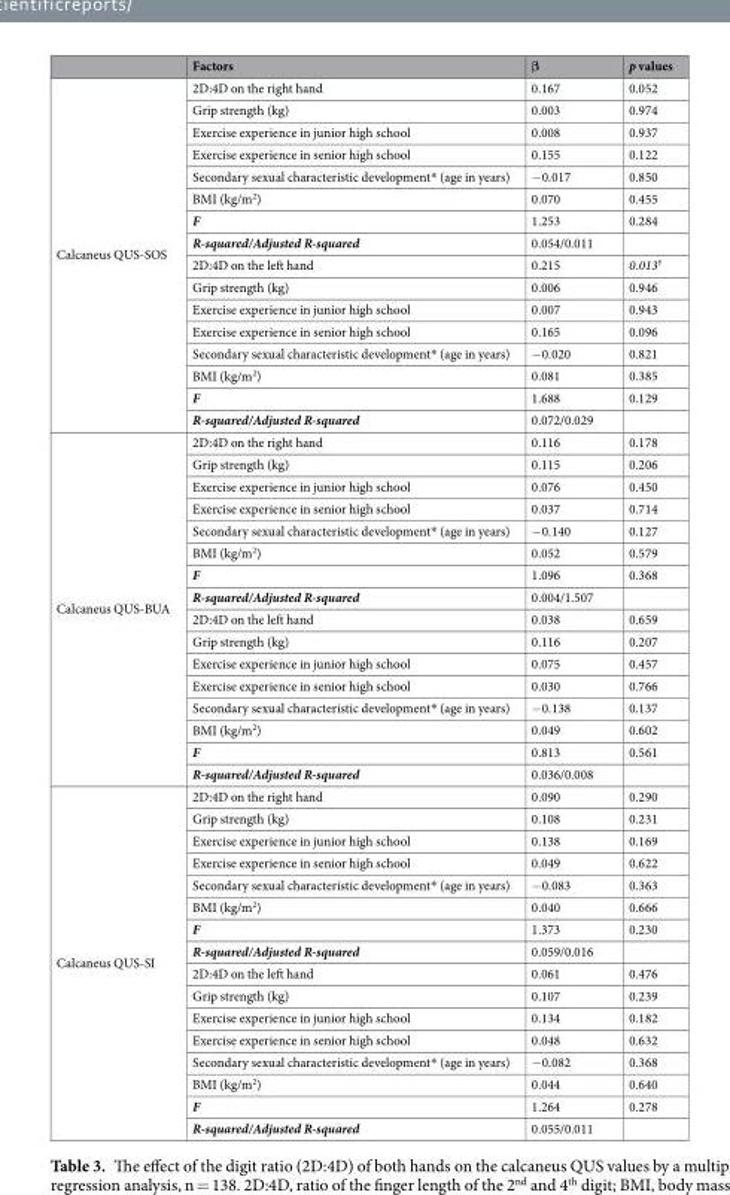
<table><thead><tr><td></td><td>Factors</td><td>β</td><td>p values</td></tr></thead><tbody><tr><td rowspan="16">Calcaneus QUS-SOS</td><td>2D:4D on the right hand</td><td>0.167</td><td>0.052</td></tr><tr><td>Grip strength (kg)</td><td>0.003</td><td>0.974</td></tr><tr><td>Exercise experience in junior high school</td><td>0.008</td><td>0.937</td></tr><tr><td>Exercise experience in senior high school</td><td>0.155</td><td>0.122</td></tr><tr><td>Secondary sexual characteristic development* (age in years)</td><td>−0.017</td><td>0.850</td></tr><tr><td>BMI (kg/m<sup>2</sup>)</td><td>0.070</td><td>0.455</td></tr><tr><td>F</td><td>1.253</td><td>0.284</td></tr><tr><td>R-squared/Adjusted R-squared</td><td>0.054/0.011</td><td></td></tr><tr><td>2D:4D on the left hand</td><td>0.215</td><td>0.013<sup>†</sup></td></tr><tr><td>Grip strength (kg)</td><td>0.006</td><td>0.946</td></tr><tr><td>Exercise experience in junior high school</td><td>0.007</td><td>0.943</td></tr><tr><td>Exercise experience in senior high school</td><td>0.165</td><td>0.096</td></tr><tr><td>Secondary sexual characteristic development* (age in years)</td><td>−0.020</td><td>0.821</td></tr><tr><td>BMI (kg/m<sup>2</sup>)</td><td>0.081</td><td>0.385</td></tr><tr><td>F</td><td>1.688</td><td>0.129</td></tr><tr><td>R-squared/Adjusted R-squared</td><td>0.072/0.029</td><td></td></tr><tr><td rowspan="16">Calcaneus QUS-BUA</td><td>2D:4D on the right hand</td><td>0.116</td><td>0.178</td></tr><tr><td>Grip strength (kg)</td><td>0.115</td><td>0.206</td></tr><tr><td>Exercise experience in junior high school</td><td>0.076</td><td>0.450</td></tr><tr><td>Exercise experience in senior high school</td><td>0.037</td><td>0.714</td></tr><tr><td>Secondary sexual characteristic development* (age in years)</td><td>−0.140</td><td>0.127</td></tr><tr><td>BMI (kg/m<sup>2</sup>)</td><td>0.052</td><td>0.579</td></tr><tr><td>F</td><td>1.096</td><td>0.368</td></tr><tr><td>R-squared/Adjusted R-squared</td><td>0.004/1.507</td><td></td></tr><tr><td>2D:4D on the left hand</td><td>0.038</td><td>0.659</td></tr><tr><td>Grip strength (kg)</td><td>0.116</td><td>0.207</td></tr><tr><td>Exercise experience in junior high school</td><td>0.075</td><td>0.457</td></tr><tr><td>Exercise experience in senior high school</td><td>0.030</td><td>0.766</td></tr><tr><td>Secondary sexual characteristic development* (age in years)</td><td>−0.138</td><td>0.137</td></tr><tr><td>BMI (kg/m<sup>2</sup>)</td><td>0.049</td><td>0.602</td></tr><tr><td>F</td><td>0.813</td><td>0.561</td></tr><tr><td>R-squared/Adjusted R-squared</td><td>0.036/0.008</td><td></td></tr><tr><td rowspan="16">Calcaneus QUS-SI</td><td>2D:4D on the right hand</td><td>0.090</td><td>0.290</td></tr><tr><td>Grip strength (kg)</td><td>0.108</td><td>0.231</td></tr><tr><td>Exercise experience in junior high school</td><td>0.138</td><td>0.169</td></tr><tr><td>Exercise experience in senior high school</td><td>0.049</td><td>0.622</td></tr><tr><td>Secondary sexual characteristic development* (age in years)</td><td>−0.083</td><td>0.363</td></tr><tr><td>BMI (kg/m<sup>2</sup>)</td><td>0.040</td><td>0.666</td></tr><tr><td>F</td><td>1.373</td><td>0.230</td></tr><tr><td>R-squared/Adjusted R-squared</td><td>0.059/0.016</td><td></td></tr><tr><td>2D:4D on the left hand</td><td>0.061</td><td>0.476</td></tr><tr><td>Grip strength (kg)</td><td>0.107</td><td>0.239</td></tr><tr><td>Exercise experience in junior high school</td><td>0.134</td><td>0.182</td></tr><tr><td>Exercise experience in senior high school</td><td>0.048</td><td>0.632</td></tr><tr><td>Secondary sexual characteristic development* (age in years)</td><td>−0.082</td><td>0.368</td></tr><tr><td>BMI (kg/m<sup>2</sup>)</td><td>0.044</td><td>0.640</td></tr><tr><td>F</td><td>1.264</td><td>0.278</td></tr><tr><td>R-squared/Adjusted R-squared</td><td>0.055/0.011</td><td></td></tr></tbody></table>